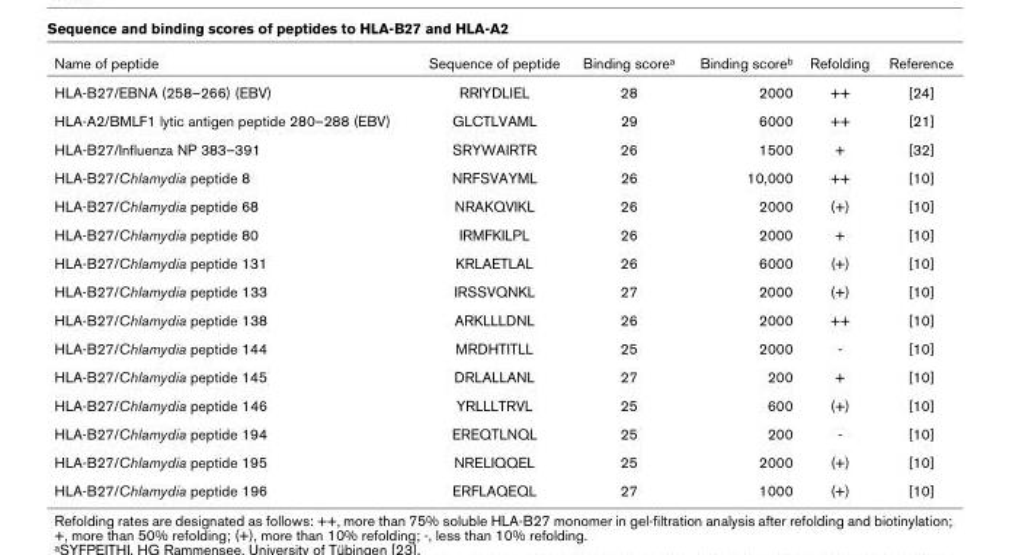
<table><thead><tr><td>Name of peptide</td><td>Sequence of peptide</td><td>Binding scorea</td><td>Binding scoreb</td><td>Refolding</td><td>Reference</td></tr></thead><tbody><tr><td>HLA-B27/EBNA (258–266) (EBV)</td><td>RRIYDLIEL</td><td>28</td><td>2000</td><td>++</td><td>[24]</td></tr><tr><td>HLA-A2/BMLF1 lytic antigen peptide 280–288 (EBV)</td><td>GLCTLVAML</td><td>29</td><td>6000</td><td>++</td><td>[21]</td></tr><tr><td>HLA-B27/Influenza NP 383–391</td><td>SRYWAIRTR</td><td>26</td><td>1500</td><td>+</td><td>[32]</td></tr><tr><td>HLA-B27/Chlamydia peptide 8</td><td>NRFSVAYML</td><td>26</td><td>10,000</td><td>++</td><td>[10]</td></tr><tr><td>HLA-B27/Chlamydia peptide 68</td><td>NRAKQVIKL</td><td>26</td><td>2000</td><td>(+)</td><td>[10]</td></tr><tr><td>HLA-B27/Chlamydia peptide 80</td><td>IRMFKILPL</td><td>26</td><td>2000</td><td>+</td><td>[10]</td></tr><tr><td>HLA-B27/Chlamydia peptide 131</td><td>KRLAETLAL</td><td>26</td><td>6000</td><td>(+)</td><td>[10]</td></tr><tr><td>HLA-B27/Chlamydia peptide 133</td><td>IRSSVQNKL</td><td>27</td><td>2000</td><td>(+)</td><td>[10]</td></tr><tr><td>HLA-B27/Chlamydia peptide 138</td><td>ARKLLLDNL</td><td>26</td><td>2000</td><td>++</td><td>[10]</td></tr><tr><td>HLA-B27/Chlamydia peptide 144</td><td>MRDHTITLL</td><td>25</td><td>2000</td><td>-</td><td>[10]</td></tr><tr><td>HLA-B27/Chlamydia peptide 145</td><td>DRLALLANL</td><td>27</td><td>200</td><td>+</td><td>[10]</td></tr><tr><td>HLA-B27/Chlamydia peptide 146</td><td>YRLLLTRVL</td><td>25</td><td>600</td><td>(+)</td><td>[10]</td></tr><tr><td>HLA-B27/Chlamydia peptide 194</td><td>EREQTLNQL</td><td>25</td><td>200</td><td>-</td><td>[10]</td></tr><tr><td>HLA-B27/Chlamydia peptide 195</td><td>NRELIQQEL</td><td>25</td><td>2000</td><td>(+)</td><td>[10]</td></tr><tr><td>HLA-B27/Chlamydia peptide 196</td><td>ERFLAQEQL</td><td>27</td><td>1000</td><td>(+)</td><td>[10]</td></tr></tbody></table>